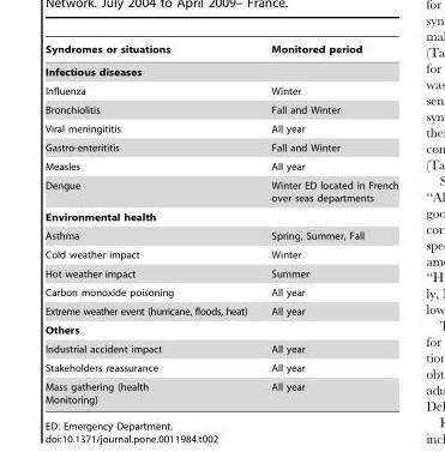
<table><thead><tr><td>Syndromes or situations</td><td>Monitored period</td></tr></thead><tbody><tr><td colspan="2">Infectious diseases</td></tr><tr><td>Influenza</td><td>Winter</td></tr><tr><td>Bronchiolitis</td><td>Fall and Winter</td></tr><tr><td>Viral meningititis</td><td>All year</td></tr><tr><td>Gastro-enterititis</td><td>Fall and Winter</td></tr><tr><td>Measles</td><td>All year</td></tr><tr><td>Dengue</td><td>Winter ED located in French over seas departments</td></tr><tr><td colspan="2">Environmental health</td></tr><tr><td>Asthma</td><td>Spring, Summer, Fall</td></tr><tr><td>Cold weather impact</td><td>Winter</td></tr><tr><td>Hot weather impact</td><td>Summer</td></tr><tr><td>Carbon monoxide poisoning</td><td>All year</td></tr><tr><td>Extreme weather event (hurricane, floods, heat)</td><td>All year</td></tr><tr><td colspan="2">Others</td></tr><tr><td>Industrial accident impact</td><td>All year</td></tr><tr><td>Stakeholders reassurance</td><td>All year</td></tr><tr><td>Mass gathering (health Monitoring)</td><td>All year</td></tr></tbody></table>